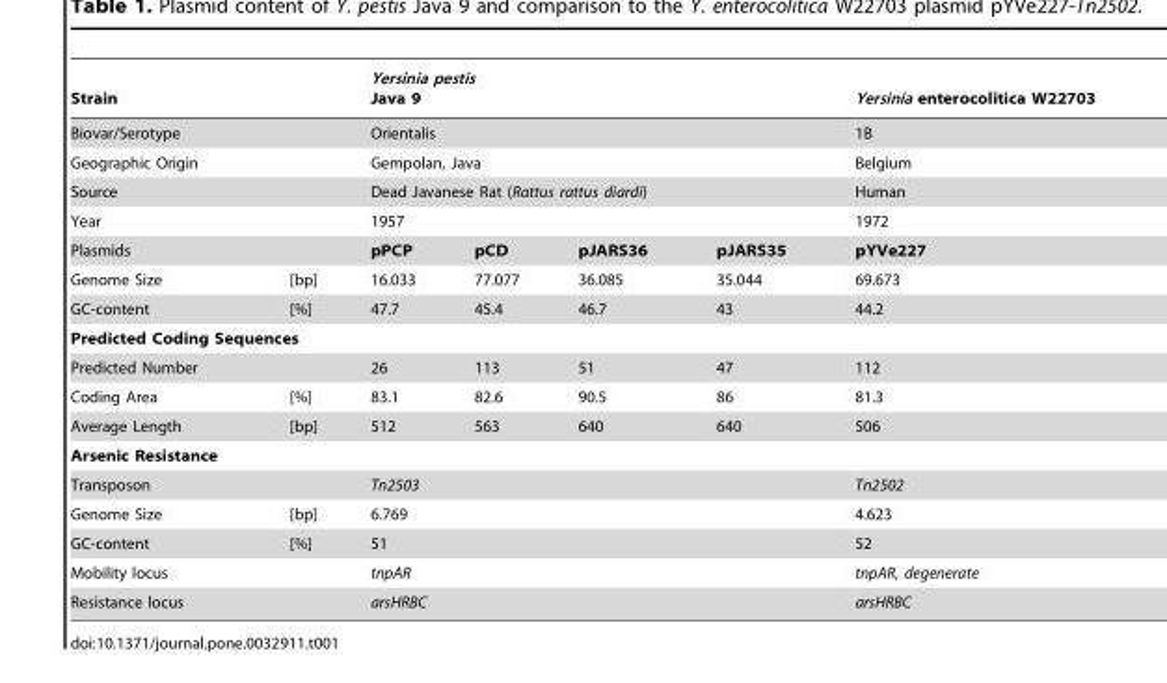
<table><thead><tr><td colspan="2">Strain</td><td colspan="4">Yersinia pestis Java 9</td><td>Yersinia enterocolitica W22703</td></tr></thead><tbody><tr><td colspan="2">Biovar/Serotype</td><td colspan="4">Orientalis</td><td>1B</td></tr><tr><td colspan="2">Geographic Origin</td><td colspan="4">Gempolan, Java</td><td>Belgium</td></tr><tr><td colspan="2">Source</td><td colspan="4">Dead Javanese Rat (Rattus rattus diardi)</td><td>Human</td></tr><tr><td colspan="2">Year</td><td colspan="4">1957</td><td>1972</td></tr><tr><td colspan="2">Plasmids</td><td>pPCP</td><td>pCD</td><td>pJARS36</td><td>pJARS35</td><td>pYVe227</td></tr><tr><td>Genome Size</td><td>[bp]</td><td>16.033</td><td>77.077</td><td>36.085</td><td>35.044</td><td>69.673</td></tr><tr><td>GC-content</td><td>[%]</td><td>47.7</td><td>45.4</td><td>46.7</td><td>43</td><td>44.2</td></tr><tr><td colspan="7">Predicted Coding Sequences</td></tr><tr><td colspan="2">Predicted Number</td><td>26</td><td>113</td><td>51</td><td>47</td><td>112</td></tr><tr><td>Coding Area</td><td>[%]</td><td>83.1</td><td>82.6</td><td>90.5</td><td>86</td><td>81.3</td></tr><tr><td>Average Length</td><td>[bp]</td><td>512</td><td>563</td><td>640</td><td>640</td><td>506</td></tr><tr><td colspan="7">Arsenic Resistance</td></tr><tr><td colspan="2">Transposon</td><td colspan="4">Tn2503</td><td>Tn2502</td></tr><tr><td>Genome Size</td><td>[bp]</td><td colspan="4">6.769</td><td>4.623</td></tr><tr><td>GC-content</td><td>[%]</td><td colspan="4">51</td><td>52</td></tr><tr><td colspan="2">Mobility locus</td><td colspan="4">tnpAR</td><td>tnpAR, degenerate</td></tr><tr><td colspan="2">Resistance locus</td><td colspan="4">arsHRBC</td><td>arsHRBC</td></tr></tbody></table>